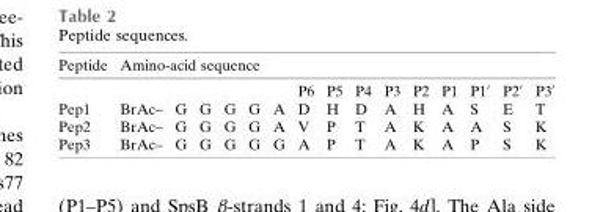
<table><tbody><tr><td rowspan="2">Peptide</td><td colspan="15">Amino-acid sequence</td></tr><tr><td></td><td></td><td></td><td></td><td></td><td></td><td>P6</td><td>P5</td><td>P4</td><td>P3</td><td>P2</td><td>P1</td><td>P1′</td><td>P2′</td><td>P3′</td></tr><tr><td>Pep1</td><td>BrAc–</td><td>G</td><td>G</td><td>G</td><td>G</td><td>A</td><td>D</td><td>H</td><td>D</td><td>A</td><td>H</td><td>A</td><td>S</td><td>E</td><td>T</td></tr><tr><td>Pep2</td><td>BrAc–</td><td>G</td><td>G</td><td>G</td><td>G</td><td>A</td><td>V</td><td>P</td><td>T</td><td>A</td><td>K</td><td>A</td><td>A</td><td>S</td><td>K</td></tr><tr><td>Pep3</td><td>BrAc–</td><td>G</td><td>G</td><td>G</td><td>G</td><td>G</td><td>A</td><td>P</td><td>T</td><td>A</td><td>K</td><td>A</td><td>P</td><td>S</td><td>K</td></tr></tbody></table>